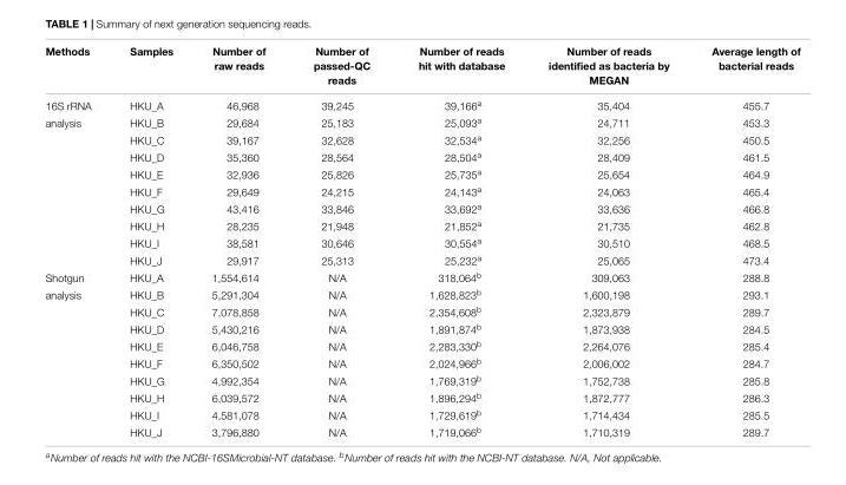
<table><thead><tr><td>Methods</td><td>Samples</td><td>Number of raw reads</td><td>Number of passed-QC reads</td><td>Number of reads hit with database</td><td>Number of reads identified as bacteria by MEGAN</td><td>Average length of bacterial reads</td></tr></thead><tbody><tr><td>16S rRNA</td><td>HKU_A</td><td>46,968</td><td>39,245</td><td>39,166<sup>a</sup></td><td>35,404</td><td>455.7</td></tr><tr><td rowspan="9">analysis</td><td>HKU_B</td><td>29,684</td><td>25,183</td><td>25,093<sup>a</sup></td><td>24,711</td><td>453.3</td></tr><tr><td>HKU_C</td><td>39,167</td><td>32,628</td><td>32,534<sup>a</sup></td><td>32,256</td><td>450.5</td></tr><tr><td>HKU_D</td><td>35,360</td><td>28,564</td><td>28,504<sup>a</sup></td><td>28,409</td><td>461.5</td></tr><tr><td>HKU_E</td><td>32,936</td><td>25,826</td><td>25,735<sup>a</sup></td><td>25,654</td><td>464.9</td></tr><tr><td>HKU_F</td><td>29,649</td><td>24,215</td><td>24,143<sup>a</sup></td><td>24,063</td><td>465.4</td></tr><tr><td>HKU_G</td><td>43,416</td><td>33,846</td><td>33,692<sup>a</sup></td><td>33,636</td><td>466.8</td></tr><tr><td>HKU_H</td><td>28,235</td><td>21,948</td><td>21,852<sup>a</sup></td><td>21,735</td><td>462.8</td></tr><tr><td>HKU_I</td><td>38,581</td><td>30,646</td><td>30,554<sup>a</sup></td><td>30,510</td><td>468.5</td></tr><tr><td>HKU_J</td><td>29,917</td><td>25,313</td><td>25,232<sup>a</sup></td><td>25,065</td><td>473.4</td></tr><tr><td>Shotgun</td><td>HKU_A</td><td>1,554,614</td><td>N/A</td><td>318,064<sup>b</sup></td><td>309,063</td><td>288.8</td></tr><tr><td rowspan="9">analysis</td><td>HKU_B</td><td>5,291,304</td><td>N/A</td><td>1,628,823<sup>b</sup></td><td>1,600,198</td><td>293.1</td></tr><tr><td>HKU_C</td><td>7,078,858</td><td>N/A</td><td>2,354,608<sup>b</sup></td><td>2,323,879</td><td>289.7</td></tr><tr><td>HKU_D</td><td>5,430,216</td><td>N/A</td><td>1,891,874<sup>b</sup></td><td>1,873,938</td><td>284.5</td></tr><tr><td>HKU_E</td><td>6,046,758</td><td>N/A</td><td>2,283,330<sup>b</sup></td><td>2,264,076</td><td>285.4</td></tr><tr><td>HKU_F</td><td>6,350,502</td><td>N/A</td><td>2,024,966<sup>b</sup></td><td>2,006,002</td><td>284.7</td></tr><tr><td>HKU_G</td><td>4,992,354</td><td>N/A</td><td>1,769,319<sup>b</sup></td><td>1,752,738</td><td>285.8</td></tr><tr><td>HKU_H</td><td>6,039,572</td><td>N/A</td><td>1,896,294<sup>b</sup></td><td>1,872,777</td><td>286.3</td></tr><tr><td>HKU_I</td><td>4,581,078</td><td>N/A</td><td>1,729,619<sup>b</sup></td><td>1,714,434</td><td>285.5</td></tr><tr><td>HKU_J</td><td>3,796,880</td><td>N/A</td><td>1,719,066<sup>b</sup></td><td>1,710,319</td><td>289.7</td></tr></tbody></table>